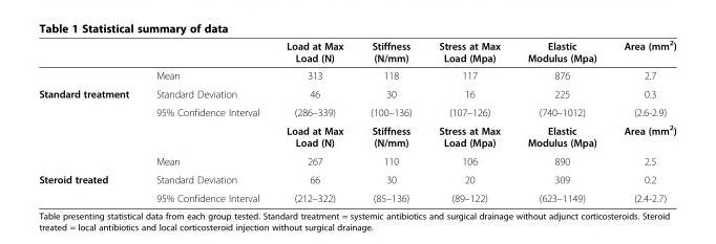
<table><thead><tr><td></td><td></td><td>Load at Max Load (N)</td><td>Stiffness (N/mm)</td><td>Stress at Max Load (Mpa)</td><td>Elastic Modulus (Mpa)</td><td>Area (mm<sup>2</sup>)</td></tr></thead><tbody><tr><td></td><td>Mean</td><td>313</td><td>118</td><td>117</td><td>876</td><td>2.7</td></tr><tr><td rowspan="4">Standard treatment</td><td>Standard Deviation</td><td>46</td><td>30</td><td>16</td><td>225</td><td>0.3</td></tr><tr><td>95% Confidence Interval</td><td>(286–339)</td><td>(100–136)</td><td>(107–126)</td><td>(740–1012)</td><td>(2.6-2.9)</td></tr><tr><td></td><td>Load at Max Load (N)</td><td>Stiffness (N/mm)</td><td>Stress at Max Load (Mpa)</td><td>Elastic Modulus (Mpa)</td><td>Area (mm<sup>2</sup>)</td></tr><tr><td>Mean</td><td>267</td><td>110</td><td>106</td><td>890</td><td>2.5</td></tr><tr><td rowspan="2">Steroid treated</td><td>Standard Deviation</td><td>66</td><td>30</td><td>20</td><td>309</td><td>0.2</td></tr><tr><td>95% Confidence Interval</td><td>(212–322)</td><td>(85–136)</td><td>(89–122)</td><td>(623–1149)</td><td>(2.4-2.7)</td></tr></tbody></table>